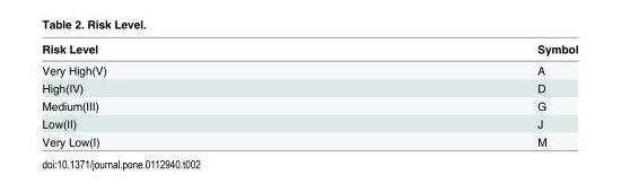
<table><thead><tr><td>Risk Level</td><td>Symbol</td></tr></thead><tbody><tr><td>Very High(V)</td><td>A</td></tr><tr><td>High(IV)</td><td>D</td></tr><tr><td>Medium(III)</td><td>G</td></tr><tr><td>Low(II)</td><td>J</td></tr><tr><td>Very Low(I)</td><td>M</td></tr></tbody></table>